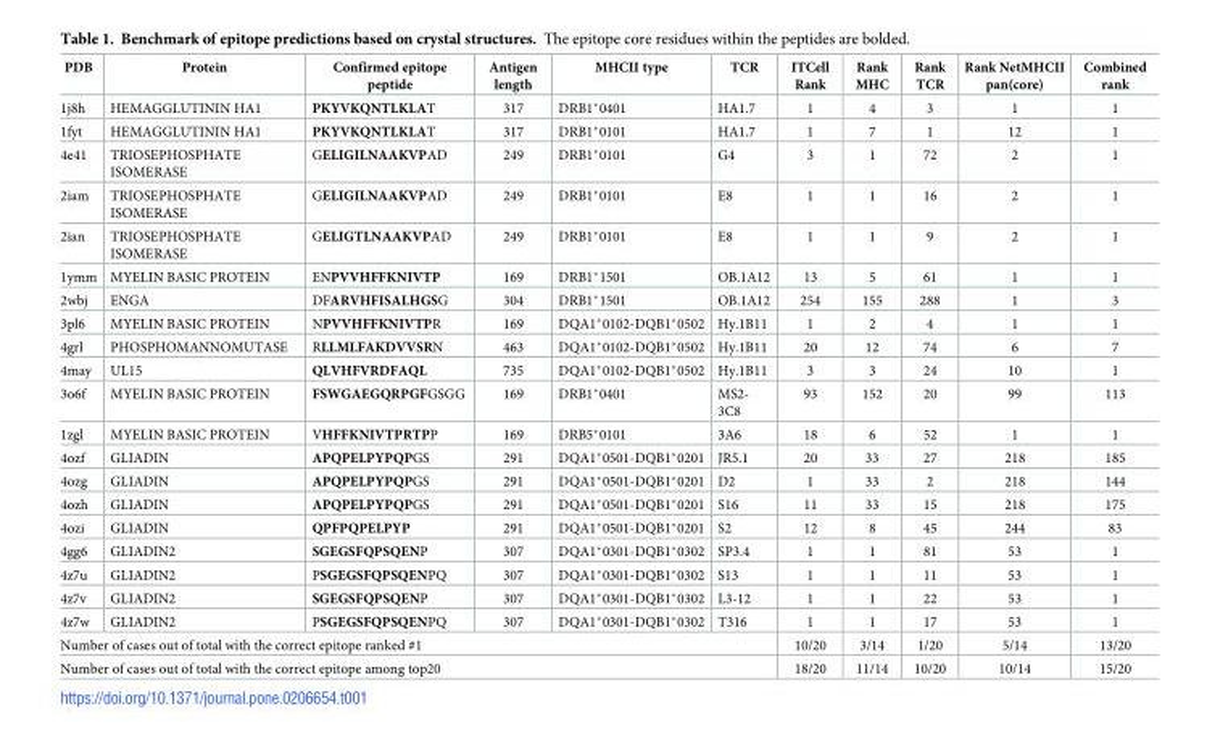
<table><thead><tr><td>PDB</td><td>Protein</td><td>Confirmed epitope peptide</td><td>Antigen length</td><td>MHCII type</td><td>TCR</td><td>ITCell Rank</td><td>Rank MHC</td><td>Rank TCR</td><td>Rank NetMHCII pan(core)</td><td>Combined rank</td></tr></thead><tbody><tr><td>1j8h</td><td>HEMAGGLUTININ HA1</td><td>PKYVKQNTLKLAT</td><td>317</td><td>DRB1*0401</td><td>HA1.7</td><td>1</td><td>4</td><td>3</td><td>1</td><td>1</td></tr><tr><td>1fyt</td><td>HEMAGGLUTININ HA1</td><td>PKYVKQNTLKLAT</td><td>317</td><td>DRB1*0101</td><td>HA1.7</td><td>1</td><td>7</td><td>1</td><td>12</td><td>1</td></tr><tr><td>4e41</td><td>TRIOSEPHOSPHATE ISOMERASE</td><td>GELIGILNAAKVPAD</td><td>249</td><td>DRB1*0101</td><td>G4</td><td>3</td><td>1</td><td>72</td><td>2</td><td>1</td></tr><tr><td>2iam</td><td>TRIOSEPHOSPHATE ISOMERASE</td><td>GELIGILNAAKVPAD</td><td>249</td><td>DRB1*0101</td><td>E8</td><td>1</td><td>1</td><td>16</td><td>2</td><td>1</td></tr><tr><td>2ian</td><td>TRIOSEPHOSPHATE ISOMERASE</td><td>GELIGTLNAAKVPAD</td><td>249</td><td>DRB1*0101</td><td>E8</td><td>1</td><td>1</td><td>9</td><td>2</td><td>1</td></tr><tr><td>1ymm</td><td>MYELIN BASIC PROTEIN</td><td>ENPVVHFFKNIVTP</td><td>169</td><td>DRB1*1501</td><td>OB.1A12</td><td>13</td><td>5</td><td>61</td><td>1</td><td>1</td></tr><tr><td>2wbj</td><td>ENGA</td><td>DFARVHFISALHGSG</td><td>304</td><td>DRB1*1501</td><td>OB.1A12</td><td>254</td><td>155</td><td>288</td><td>1</td><td>3</td></tr><tr><td>3pl6</td><td>MYELIN BASIC PROTEIN</td><td>NPVVHFFKNIVTPR</td><td>169</td><td>DQA1*0102-DQB1*0502</td><td>Hy.1B11</td><td>1</td><td>2</td><td>4</td><td>1</td><td>1</td></tr><tr><td>4grl</td><td>PHOSPHOMANNOMUTASE</td><td>RLLMLFAKDVVSRN</td><td>463</td><td>DQA1*0102-DQB1*0502</td><td>Hy.1B11</td><td>20</td><td>12</td><td>74</td><td>6</td><td>7</td></tr><tr><td>4may</td><td>UL15</td><td>QLVHFVRDFAQL</td><td>735</td><td>DQA1*0102-DQB1*0502</td><td>Hy.1B11</td><td>3</td><td>3</td><td>24</td><td>10</td><td>1</td></tr><tr><td>3o6f</td><td>MYELIN BASIC PROTEIN</td><td>FSWGAEGQRPGFGSGG</td><td>169</td><td>DRB1*0401</td><td>MS2- 3C8</td><td>93</td><td>152</td><td>20</td><td>99</td><td>113</td></tr><tr><td>1zgl</td><td>MYELIN BASIC PROTEIN</td><td>VHFFKNIVTPRTPP</td><td>169</td><td>DRB5*0101</td><td>3A6</td><td>18</td><td>6</td><td>52</td><td>1</td><td>1</td></tr><tr><td>4ozf</td><td>GLIADIN</td><td>APQPELPYPQPGS</td><td>291</td><td>DQA1*0501-DQB1*0201</td><td>JR5.1</td><td>20</td><td>33</td><td>27</td><td>218</td><td>185</td></tr><tr><td>4ozg</td><td>GLIADIN</td><td>APQPELPYPQPGS</td><td>291</td><td>DQA1*0501-DQB1*0201</td><td>D2</td><td>1</td><td>33</td><td>2</td><td>218</td><td>144</td></tr><tr><td>4ozh</td><td>GLIADIN</td><td>APQPELPYPQPGS</td><td>291</td><td>DQA1*0501-DQB1*0201</td><td>S16</td><td>11</td><td>33</td><td>15</td><td>218</td><td>175</td></tr><tr><td>4ozi</td><td>GLIADIN</td><td>QPFPQPELPYP</td><td>291</td><td>DQA1*0501-DQB1*0201</td><td>S2</td><td>12</td><td>8</td><td>45</td><td>244</td><td>83</td></tr><tr><td>4gg6</td><td>GLIADIN2</td><td>SGEGSFQPSQENP</td><td>307</td><td>DQA1*0301-DQB1*0302</td><td>SP3.4</td><td>1</td><td>1</td><td>81</td><td>53</td><td>1</td></tr><tr><td>4z7u</td><td>GLIADIN2</td><td>PSGEGSFQPSQENPQ</td><td>307</td><td>DQA1*0301-DQB1*0302</td><td>S13</td><td>1</td><td>1</td><td>11</td><td>53</td><td>1</td></tr><tr><td>4z7v</td><td>GLIADIN2</td><td>SGEGSFQPSQENP</td><td>307</td><td>DQA1*0301-DQB1*0302</td><td>L3-12</td><td>1</td><td>1</td><td>22</td><td>53</td><td>1</td></tr><tr><td>4z7w</td><td>GLIADIN2</td><td>PSGEGSFQPSQENPQ</td><td>307</td><td>DQA1*0301-DQB1*0302</td><td>T316</td><td>1</td><td>1</td><td>17</td><td>53</td><td>1</td></tr><tr><td colspan="6">Number of cases out of total with the correct epitope ranked #1</td><td>10/20</td><td>3/14</td><td>1/20</td><td>5/14</td><td>13/20</td></tr><tr><td colspan="6">Number of cases out of total with the correct epitope among top20</td><td>18/20</td><td>11/14</td><td>10/20</td><td>10/14</td><td>15/20</td></tr></tbody></table>